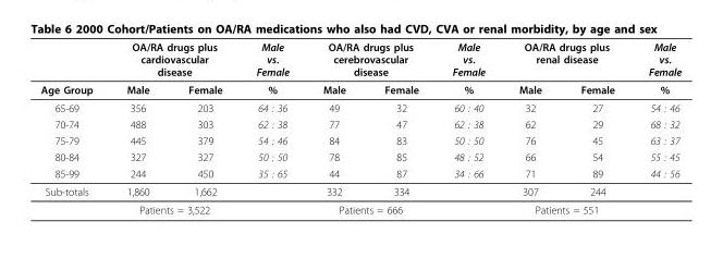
<table><thead><tr><td rowspan="2">Age Group</td><td colspan="2">OA/RA drugs plus cardiovascular disease</td><td rowspan="2">Male vs. Female %</td><td colspan="2">OA/RA drugs plus cerebrovascular disease</td><td rowspan="2">Male vs. Female %</td><td colspan="2">OA/RA drugs plus renal disease</td><td rowspan="2">Male vs. Female %</td></tr><tr><td>Male</td><td>Female</td><td>Male</td><td>Female</td><td>Male</td><td>Female</td></tr></thead><tbody><tr><td>65-69</td><td>356</td><td>203</td><td>64 : 36</td><td>49</td><td>32</td><td>60 : 40</td><td>32</td><td>27</td><td>54 : 46</td></tr><tr><td>70-74</td><td>488</td><td>303</td><td>62 : 38</td><td>77</td><td>47</td><td>62 : 38</td><td>62</td><td>29</td><td>68 : 32</td></tr><tr><td>75-79</td><td>445</td><td>379</td><td>54 : 46</td><td>84</td><td>83</td><td>50 : 50</td><td>76</td><td>45</td><td>63 : 37</td></tr><tr><td>80-84</td><td>327</td><td>327</td><td>50 : 50</td><td>78</td><td>85</td><td>48 : 52</td><td>66</td><td>54</td><td>55 : 45</td></tr><tr><td>85-99</td><td>244</td><td>450</td><td>35 : 65</td><td>44</td><td>87</td><td>34 : 66</td><td>71</td><td>89</td><td>44 : 56</td></tr><tr><td rowspan="2">Sub-totals</td><td>1,860</td><td>1,662</td><td></td><td>332</td><td>334</td><td></td><td>307</td><td>244</td><td></td></tr><tr><td colspan="2">Patients = 3,522</td><td></td><td colspan="2">Patients = 666</td><td></td><td colspan="2">Patients = 551</td><td></td></tr></tbody></table>